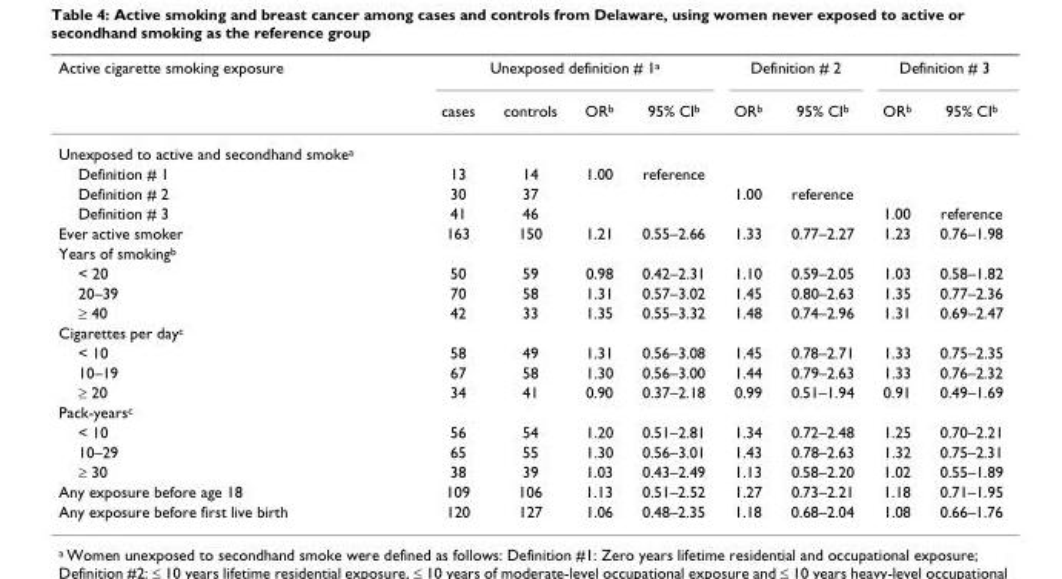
<table><thead><tr><td rowspan="2">Active cigarette smoking exposure</td><td colspan="4">Unexposed definition # 1<sup>a</sup></td><td colspan="2">Definition # 2</td><td colspan="2">Definition # 3</td></tr><tr><td>cases</td><td>controls</td><td>OR<sup>b</sup></td><td>95% CI<sup>b</sup></td><td>OR<sup>b</sup></td><td>95% CI<sup>b</sup></td><td>OR<sup>b</sup></td><td>95% CI<sup>b</sup></td></tr></thead><tbody><tr><td colspan="9">Unexposed to active and secondhand smoke<sup>a</sup></td></tr><tr><td>Definition # 1</td><td>13</td><td>14</td><td>1.00</td><td>reference</td><td></td><td></td><td></td><td></td></tr><tr><td>Definition # 2</td><td>30</td><td>37</td><td></td><td></td><td>1.00</td><td>reference</td><td></td><td></td></tr><tr><td>Definition # 3</td><td>41</td><td>46</td><td></td><td></td><td></td><td></td><td>1.00</td><td>reference</td></tr><tr><td>Ever active smoker</td><td>163</td><td>150</td><td>1.21</td><td>0.55–2.66</td><td>1.33</td><td>0.77–2.27</td><td>1.23</td><td>0.76–1.98</td></tr><tr><td colspan="9">Years of smoking<sup>b</sup></td></tr><tr><td>&lt; 20</td><td>50</td><td>59</td><td>0.98</td><td>0.42–2.31</td><td>1.10</td><td>0.59–2.05</td><td>1.03</td><td>0.58–1.82</td></tr><tr><td>20–39</td><td>70</td><td>58</td><td>1.31</td><td>0.57–3.02</td><td>1.45</td><td>0.80–2.63</td><td>1.35</td><td>0.77–2.36</td></tr><tr><td>≥ 40</td><td>42</td><td>33</td><td>1.35</td><td>0.55–3.32</td><td>1.48</td><td>0.74–2.96</td><td>1.31</td><td>0.69–2.47</td></tr><tr><td colspan="9">Cigarettes per day<sup>c</sup></td></tr><tr><td>&lt; 10</td><td>58</td><td>49</td><td>1.31</td><td>0.56–3.08</td><td>1.45</td><td>0.78–2.71</td><td>1.33</td><td>0.75–2.35</td></tr><tr><td>10–19</td><td>67</td><td>58</td><td>1.30</td><td>0.56–3.00</td><td>1.44</td><td>0.79–2.63</td><td>1.33</td><td>0.76–2.32</td></tr><tr><td>≥ 20</td><td>34</td><td>41</td><td>0.90</td><td>0.37–2.18</td><td>0.99</td><td>0.51–1.94</td><td>0.91</td><td>0.49–1.69</td></tr><tr><td colspan="9">Pack-years<sup>c</sup></td></tr><tr><td>&lt; 10</td><td>56</td><td>54</td><td>1.20</td><td>0.51–2.81</td><td>1.34</td><td>0.72–2.48</td><td>1.25</td><td>0.70–2.21</td></tr><tr><td>10–29</td><td>65</td><td>55</td><td>1.30</td><td>0.56–3.01</td><td>1.43</td><td>0.78–2.63</td><td>1.32</td><td>0.75–2.31</td></tr><tr><td>≥ 30</td><td>38</td><td>39</td><td>1.03</td><td>0.43–2.49</td><td>1.13</td><td>0.58–2.20</td><td>1.02</td><td>0.55–1.89</td></tr><tr><td>Any exposure before age 18</td><td>109</td><td>106</td><td>1.13</td><td>0.51–2.52</td><td>1.27</td><td>0.73–2.21</td><td>1.18</td><td>0.71–1.95</td></tr><tr><td>Any exposure before first live birth</td><td>120</td><td>127</td><td>1.06</td><td>0.48–2.35</td><td>1.18</td><td>0.68–2.04</td><td>1.08</td><td>0.66–1.76</td></tr></tbody></table>